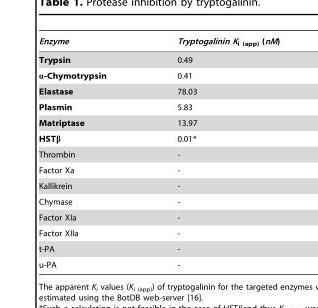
<table><thead><tr><td>Enzyme</td><td>Tryptogalinin K<sub>i (app)</sub> (nM)</td></tr></thead><tbody><tr><td>Trypsin</td><td>0.49</td></tr><tr><td>α-Chymotrypsin</td><td>0.41</td></tr><tr><td>Elastase</td><td>78.03</td></tr><tr><td>Plasmin</td><td>5.83</td></tr><tr><td>Matriptase</td><td>13.97</td></tr><tr><td>HSTβ</td><td>0.01*</td></tr><tr><td>Thrombin</td><td>-</td></tr><tr><td>Factor Xa</td><td>-</td></tr><tr><td>Kallikrein</td><td>-</td></tr><tr><td>Chymase</td><td>-</td></tr><tr><td>Factor XIa</td><td>-</td></tr><tr><td>Factor XIIa</td><td>-</td></tr><tr><td>t-PA</td><td>-</td></tr><tr><td>u-PA</td><td>-</td></tr></tbody></table>